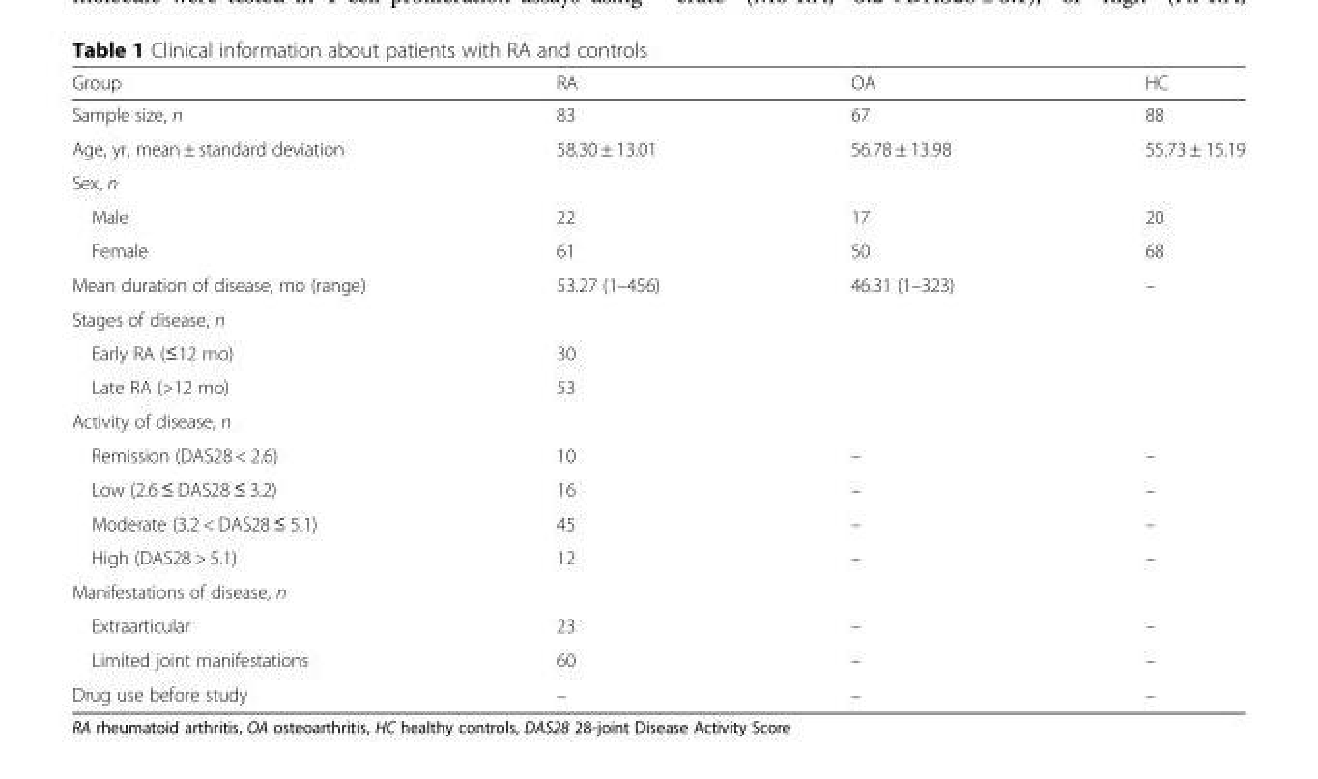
<table><thead><tr><td>Group</td><td>RA</td><td>OA</td><td>HC</td></tr></thead><tbody><tr><td>Sample size, n</td><td>83</td><td>67</td><td>88</td></tr><tr><td>Age, yr, mean ± standard deviation</td><td>58.30 ± 13.01</td><td>56.78 ± 13.98</td><td>55.73 ± 15.19</td></tr><tr><td colspan="4">Sex, n</td></tr><tr><td>Male</td><td>22</td><td>17</td><td>20</td></tr><tr><td>Female</td><td>61</td><td>50</td><td>68</td></tr><tr><td>Mean duration of disease, mo (range)</td><td>53.27 (1–456)</td><td>46.31 (1–323)</td><td>–</td></tr><tr><td colspan="4">Stages of disease, n</td></tr><tr><td>Early RA (≤12 mo)</td><td>30</td><td></td><td></td></tr><tr><td>Late RA (&gt;12 mo)</td><td>53</td><td></td><td></td></tr><tr><td colspan="4">Activity of disease, n</td></tr><tr><td>Remission (DAS28 &lt; 2.6)</td><td>10</td><td>–</td><td>–</td></tr><tr><td>Low (2.6 ≤ DAS28 ≤ 3.2)</td><td>16</td><td>–</td><td>–</td></tr><tr><td>Moderate (3.2 &lt; DAS28 ≤ 5.1)</td><td>45</td><td>–</td><td>–</td></tr><tr><td>High (DAS28 &gt; 5.1)</td><td>12</td><td>–</td><td>–</td></tr><tr><td colspan="4">Manifestations of disease, n</td></tr><tr><td>Extraarticular</td><td>23</td><td>–</td><td>–</td></tr><tr><td>Limited joint manifestations</td><td>60</td><td>–</td><td>–</td></tr><tr><td>Drug use before study</td><td>–</td><td>–</td><td>–</td></tr></tbody></table>